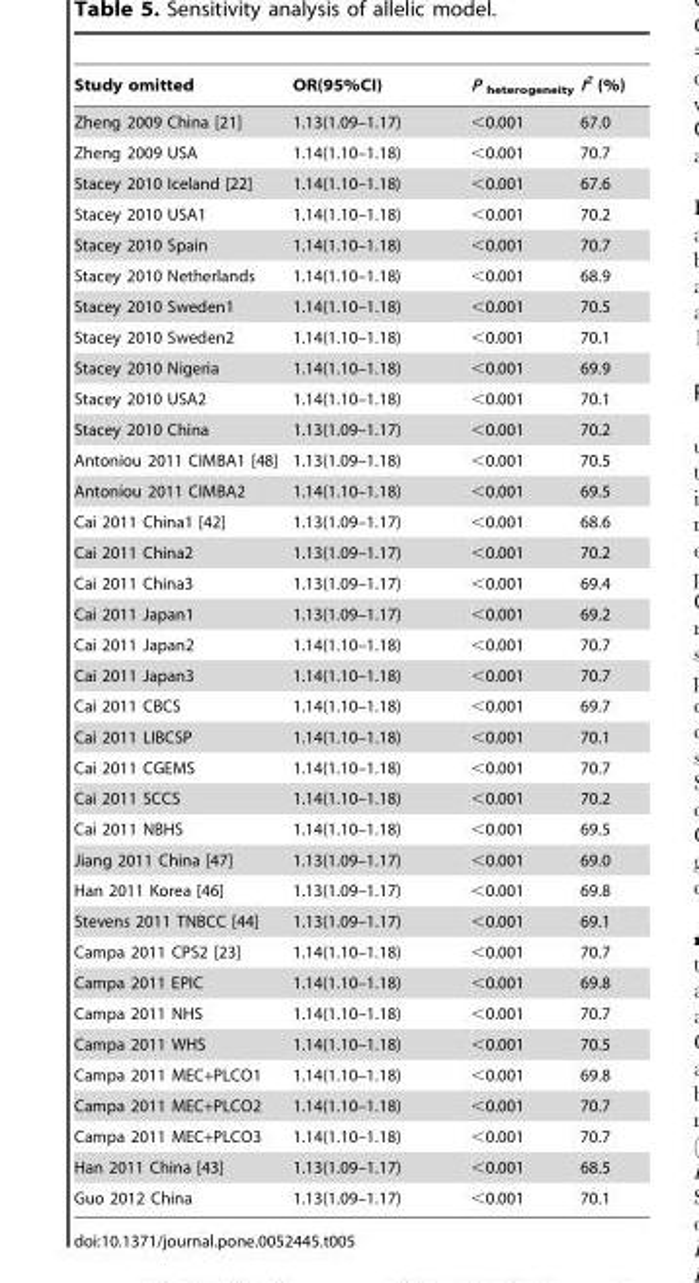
<table><thead><tr><td>Study omitted</td><td>OR(95%CI)</td><td>P <sub>heterogeneity</sub></td><td>I<sup>2</sup> (%)</td></tr></thead><tbody><tr><td>Zheng 2009 China [21]</td><td>1.13(1.09–1.17)</td><td>&lt;0.001</td><td>67.0</td></tr><tr><td>Zheng 2009 USA</td><td>1.14(1.10–1.18)</td><td>&lt;0.001</td><td>70.7</td></tr><tr><td>Stacey 2010 Iceland [22]</td><td>1.14(1.10–1.18)</td><td>&lt;0.001</td><td>67.6</td></tr><tr><td>Stacey 2010 USA1</td><td>1.14(1.10–1.18)</td><td>&lt;0.001</td><td>70.2</td></tr><tr><td>Stacey 2010 Spain</td><td>1.14(1.10–1.18)</td><td>&lt;0.001</td><td>70.7</td></tr><tr><td>Stacey 2010 Netherlands</td><td>1.14(1.10–1.18)</td><td>&lt;0.001</td><td>68.9</td></tr><tr><td>Stacey 2010 Sweden1</td><td>1.14(1.10–1.18)</td><td>&lt;0.001</td><td>70.5</td></tr><tr><td>Stacey 2010 Sweden2</td><td>1.14(1.10–1.18)</td><td>&lt;0.001</td><td>70.1</td></tr><tr><td>Stacey 2010 Nigeria</td><td>1.14(1.10–1.18)</td><td>&lt;0.001</td><td>69.9</td></tr><tr><td>Stacey 2010 USA2</td><td>1.14(1.10–1.18)</td><td>&lt;0.001</td><td>70.1</td></tr><tr><td>Stacey 2010 China</td><td>1.13(1.09–1.17)</td><td>&lt;0.001</td><td>70.2</td></tr><tr><td>Antoniou 2011 CIMBA1 [48]</td><td>1.13(1.09–1.18)</td><td>&lt;0.001</td><td>70.5</td></tr><tr><td>Antoniou 2011 CIMBA2</td><td>1.14(1.10–1.18)</td><td>&lt;0.001</td><td>69.5</td></tr><tr><td>Cai 2011 China1 [42]</td><td>1.13(1.09–1.17)</td><td>&lt;0.001</td><td>68.6</td></tr><tr><td>Cai 2011 China2</td><td>1.13(1.09–1.17)</td><td>&lt;0.001</td><td>70.2</td></tr><tr><td>Cai 2011 China3</td><td>1.13(1.09–1.17)</td><td>&lt;0.001</td><td>69.4</td></tr><tr><td>Cai 2011 Japan1</td><td>1.13(1.09–1.17)</td><td>&lt;0.001</td><td>69.2</td></tr><tr><td>Cai 2011 Japan2</td><td>1.14(1.10–1.18)</td><td>&lt;0.001</td><td>70.7</td></tr><tr><td>Cai 2011 Japan3</td><td>1.14(1.10–1.18)</td><td>&lt;0.001</td><td>70.7</td></tr><tr><td>Cai 2011 CBCS</td><td>1.14(1.10–1.18)</td><td>&lt;0.001</td><td>69.7</td></tr><tr><td>Cai 2011 LIBCSP</td><td>1.14(1.10–1.18)</td><td>&lt;0.001</td><td>70.1</td></tr><tr><td>Cai 2011 CGEMS</td><td>1.14(1.10–1.18)</td><td>&lt;0.001</td><td>70.7</td></tr><tr><td>Cai 2011 SCCS</td><td>1.14(1.10–1.18)</td><td>&lt;0.001</td><td>70.2</td></tr><tr><td>Cai 2011 NBHS</td><td>1.14(1.10–1.18)</td><td>&lt;0.001</td><td>69.5</td></tr><tr><td>Jiang 2011 China [47]</td><td>1.13(1.09–1.17)</td><td>&lt;0.001</td><td>69.0</td></tr><tr><td>Han 2011 Korea [46]</td><td>1.13(1.09–1.17)</td><td>&lt;0.001</td><td>69.8</td></tr><tr><td>Stevens 2011 TNBCC [44]</td><td>1.13(1.09–1.17)</td><td>&lt;0.001</td><td>69.1</td></tr><tr><td>Campa 2011 CPS2 [23]</td><td>1.14(1.10–1.18)</td><td>&lt;0.001</td><td>70.7</td></tr><tr><td>Campa 2011 EPIC</td><td>1.14(1.10–1.18)</td><td>&lt;0.001</td><td>69.8</td></tr><tr><td>Campa 2011 NHS</td><td>1.14(1.10–1.18)</td><td>&lt;0.001</td><td>70.7</td></tr><tr><td>Campa 2011 WHS</td><td>1.14(1.10–1.18)</td><td>&lt;0.001</td><td>70.5</td></tr><tr><td>Campa 2011 MEC+PLCO1</td><td>1.14(1.10–1.18)</td><td>&lt;0.001</td><td>69.8</td></tr><tr><td>Campa 2011 MEC+PLCO2</td><td>1.14(1.10–1.18)</td><td>&lt;0.001</td><td>70.7</td></tr><tr><td>Campa 2011 MEC+PLCO3</td><td>1.14(1.10–1.18)</td><td>&lt;0.001</td><td>70.7</td></tr><tr><td>Han 2011 China [43]</td><td>1.13(1.09–1.17)</td><td>&lt;0.001</td><td>68.5</td></tr><tr><td>Guo 2012 China</td><td>1.13(1.09–1.17)</td><td>&lt;0.001</td><td>70.1</td></tr></tbody></table>